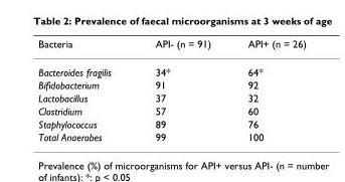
<table><thead><tr><td>Bacteria</td><td>API- (n = 91)</td><td>API+ (n = 26)</td></tr></thead><tbody><tr><td>Bacteroides fragilis</td><td>34*</td><td>64*</td></tr><tr><td>Bifidobacterium</td><td>91</td><td>92</td></tr><tr><td>Lactobacillus</td><td>37</td><td>32</td></tr><tr><td>Clostridium</td><td>57</td><td>60</td></tr><tr><td>Staphylococcus</td><td>89</td><td>76</td></tr><tr><td>Total Anaerobes</td><td>99</td><td>100</td></tr></tbody></table>